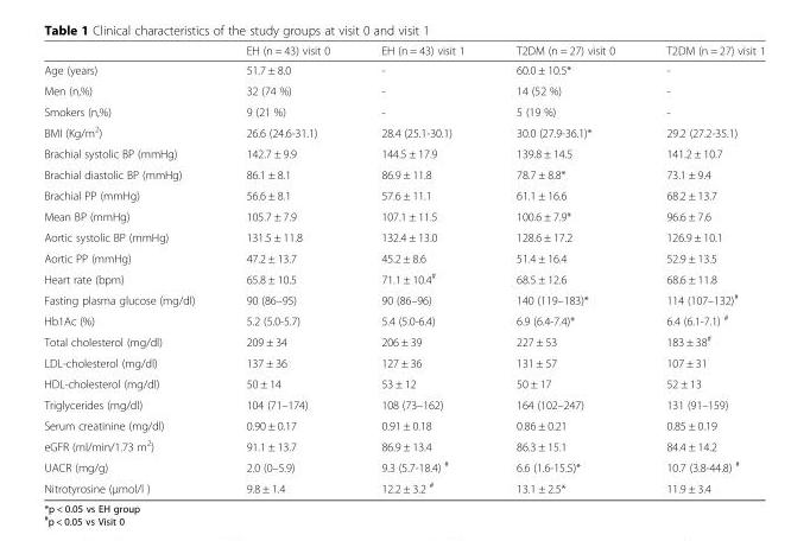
<table><thead><tr><td></td><td>EH (n = 43) visit 0</td><td>EH (n = 43) visit 1</td><td>T2DM (n = 27) visit 0</td><td>T2DM (n = 27) visit 1</td></tr></thead><tbody><tr><td>Age (years)</td><td>51.7 ± 8.0</td><td>-</td><td>60.0 ± 10.5*</td><td>-</td></tr><tr><td>Men (n,%)</td><td>32 (74 %)</td><td>-</td><td>14 (52 %)</td><td>-</td></tr><tr><td>Smokers (n,%)</td><td>9 (21 %)</td><td>-</td><td>5 (19 %)</td><td>-</td></tr><tr><td>BMI (Kg/m<sup>2</sup>)</td><td>26.6 (24.6-31.1)</td><td>28.4 (25.1-30.1)</td><td>30.0 (27.9-36.1)*</td><td>29.2 (27.2-35.1)</td></tr><tr><td>Brachial systolic BP (mmHg)</td><td>142.7 ± 9.9</td><td>144.5 ± 17.9</td><td>139.8 ± 14.5</td><td>141.2 ± 10.7</td></tr><tr><td>Brachial diastolic BP (mmHg)</td><td>86.1 ± 8.1</td><td>86.9 ± 11.8</td><td>78.7 ± 8.8*</td><td>73.1 ± 9.4</td></tr><tr><td>Brachial PP (mmHg)</td><td>56.6 ± 8.1</td><td>57.6 ± 11.1</td><td>61.1 ± 16.6</td><td>68.2 ± 13.7</td></tr><tr><td>Mean BP (mmHg)</td><td>105.7 ± 7.9</td><td>107.1 ± 11.5</td><td>100.6 ± 7.9*</td><td>96.6 ± 7.6</td></tr><tr><td>Aortic systolic BP (mmHg)</td><td>131.5 ± 11.8</td><td>132.4 ± 13.0</td><td>128.6 ± 17.2</td><td>126.9 ± 10.1</td></tr><tr><td>Aortic PP (mmHg)</td><td>47.2 ± 13.7</td><td>45.2 ± 8.6</td><td>51.4 ± 16.4</td><td>52.9 ± 13.5</td></tr><tr><td>Heart rate (bpm)</td><td>65.8 ± 10.5</td><td>71.1 ± 10.4<sup>#</sup></td><td>68.5 ± 12.6</td><td>68.6 ± 11.8</td></tr><tr><td>Fasting plasma glucose (mg/dl)</td><td>90 (86–95)</td><td>90 (86–96)</td><td>140 (119–183)*</td><td>114 (107–132)<sup>#</sup></td></tr><tr><td>Hb1Ac (%)</td><td>5.2 (5.0-5.7)</td><td>5.4 (5.0-6.4)</td><td>6.9 (6.4-7.4)*</td><td>6.4 (6.1-7.1) <sup>#</sup></td></tr><tr><td>Total cholesterol (mg/dl)</td><td>209 ± 34</td><td>206 ± 39</td><td>227 ± 53</td><td>183 ± 38<sup>#</sup></td></tr><tr><td>LDL-cholesterol (mg/dl)</td><td>137 ± 36</td><td>127 ± 36</td><td>131 ± 57</td><td>107 ± 31</td></tr><tr><td>HDL-cholesterol (mg/dl)</td><td>50 ± 14</td><td>53 ± 12</td><td>50 ± 17</td><td>52 ± 13</td></tr><tr><td>Triglycerides (mg/dl)</td><td>104 (71–174)</td><td>108 (73–162)</td><td>164 (102–247)</td><td>131 (91–159)</td></tr><tr><td>Serum creatinine (mg/dl)</td><td>0.90 ± 0.17</td><td>0.91 ± 0.18</td><td>0.86 ± 0.21</td><td>0.85 ± 0.19</td></tr><tr><td>eGFR (ml/min/1.73 m<sup>2</sup>)</td><td>91.1 ± 13.7</td><td>86.9 ± 13.4</td><td>86.3 ± 15.1</td><td>84.4 ± 14.2</td></tr><tr><td>UACR (mg/g)</td><td>2.0 (0–5.9)</td><td>9.3 (5.7-18.4) <sup>#</sup></td><td>6.6 (1.6-15.5)*</td><td>10.7 (3.8-44.8) <sup>#</sup></td></tr><tr><td>Nitrotyrosine (μmol/l )</td><td>9.8 ± 1.4</td><td>12.2 ± 3.2 <sup>#</sup></td><td>13.1 ± 2.5*</td><td>11.9 ± 3.4</td></tr></tbody></table>